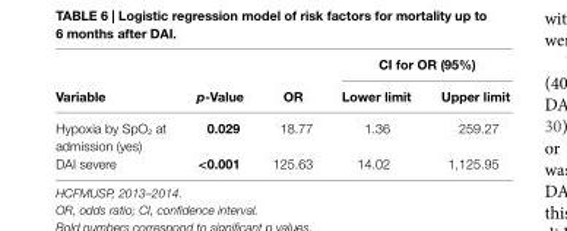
<table><thead><tr><td rowspan="2">Variable</td><td rowspan="2">p-Value</td><td rowspan="2">Or</td><td colspan="2">ci for Or (95%)</td></tr><tr><td>lower limit</td><td>Upper limit</td></tr></thead><tbody><tr><td>Hypoxia by SpO<sub>2</sub> at admission (yes)</td><td>0.029</td><td>18.77</td><td>1.36</td><td>259.27</td></tr><tr><td>DAI severe</td><td>&lt;0.001</td><td>125.63</td><td>14.02</td><td>1,125.95</td></tr></tbody></table>